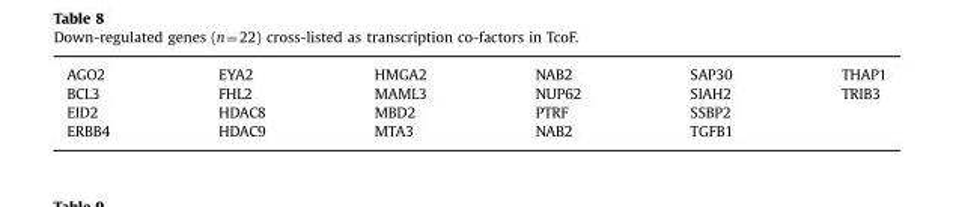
<table><tbody><tr><td>AGO2</td><td>EYA2</td><td>HMGA2</td><td>NAB2</td><td>SAP30</td><td>THAP1</td></tr><tr><td>BCL3</td><td>FHL2</td><td>MAML3</td><td>NUP62</td><td>SIAH2</td><td>TRIB3</td></tr><tr><td>EID2</td><td>HDAC8</td><td>MBD2</td><td>PTRF</td><td>SSBP2</td><td></td></tr><tr><td>ERBB4</td><td>HDAC9</td><td>MTA3</td><td>NAB2</td><td>TGFB1</td><td></td></tr></tbody></table>